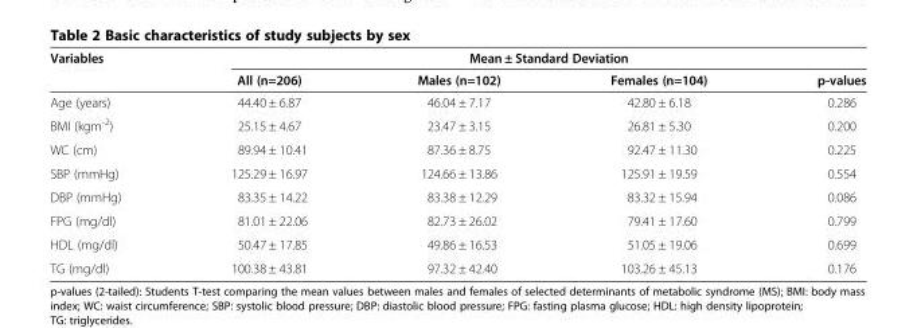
<table><thead><tr><td rowspan="2">Variables</td><td colspan="4">Mean ± Standard Deviation</td></tr><tr><td>All (n=206)</td><td>Males (n=102)</td><td>Females (n=104)</td><td>p-values</td></tr></thead><tbody><tr><td>Age (years)</td><td>44.40 ± 6.87</td><td>46.04 ± 7.17</td><td>42.80 ± 6.18</td><td>0.286</td></tr><tr><td>BMI (kgm<sup>-2</sup>)</td><td>25.15 ± 4.67</td><td>23.47 ± 3.15</td><td>26.81 ± 5.30</td><td>0.200</td></tr><tr><td>WC (cm)</td><td>89.94 ± 10.41</td><td>87.36 ± 8.75</td><td>92.47 ± 11.30</td><td>0.225</td></tr><tr><td>SBP (mmHg)</td><td>125.29 ± 16.97</td><td>124.66 ± 13.86</td><td>125.91 ± 19.59</td><td>0.554</td></tr><tr><td>DBP (mmHg)</td><td>83.35 ± 14.22</td><td>83.38 ± 12.29</td><td>83.32 ± 15.94</td><td>0.086</td></tr><tr><td>FPG (mg/dl)</td><td>81.01 ± 22.06</td><td>82.73 ± 26.02</td><td>79.41 ± 17.60</td><td>0.799</td></tr><tr><td>HDL (mg/dl)</td><td>50.47 ± 17.85</td><td>49.86 ± 16.53</td><td>51.05 ± 19.06</td><td>0.699</td></tr><tr><td>TG (mg/dl)</td><td>100.38 ± 43.81</td><td>97.32 ± 42.40</td><td>103.26 ± 45.13</td><td>0.176</td></tr></tbody></table>